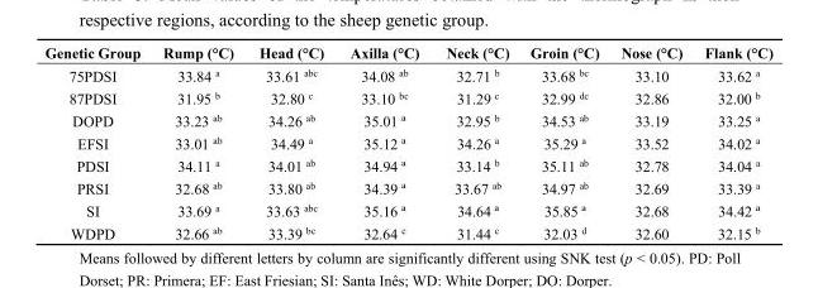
<table><thead><tr><td>Genetic Group</td><td>Rump (°C)</td><td>Head (°C)</td><td>Axilla (°C)</td><td>Neck (°C)</td><td>Groin (°C)</td><td>Nose (°C)</td><td>Flank (°C)</td></tr></thead><tbody><tr><td>75PDSI</td><td>33.84 <sup>a</sup></td><td>33.61 <sup>abc</sup></td><td>34.08 <sup>ab</sup></td><td>32.71 <sup>b</sup></td><td>33.68 <sup>bc</sup></td><td>33.10</td><td>33.62 <sup>a</sup></td></tr><tr><td>87PDSI</td><td>31.95 <sup>b</sup></td><td>32.80 <sup>c</sup></td><td>33.10 <sup>bc</sup></td><td>31.29 <sup>c</sup></td><td>32.99 <sup>dc</sup></td><td>32.86</td><td>32.00 <sup>b</sup></td></tr><tr><td>DOPD</td><td>33.23 <sup>ab</sup></td><td>34.26 <sup>ab</sup></td><td>35.01 <sup>ª</sup></td><td>32.95 <sup>b</sup></td><td>34.53 <sup>ab</sup></td><td>33.19</td><td>33.25 <sup>a</sup></td></tr><tr><td>EFSI</td><td>33.01 <sup>ab</sup></td><td>34.49 <sup>a</sup></td><td>35.12 <sup>ª</sup></td><td>34.26 <sup>a</sup></td><td>35.29 <sup>a</sup></td><td>33.52</td><td>34.02 <sup>a</sup></td></tr><tr><td>PDSI</td><td>34.11 <sup>a</sup></td><td>34.01 <sup>ab</sup></td><td>34.94 <sup>ª</sup></td><td>33.14 <sup>b</sup></td><td>35.11 <sup>ab</sup></td><td>32.78</td><td>34.04 <sup>a</sup></td></tr><tr><td>PRSI</td><td>32.68 <sup>ab</sup></td><td>33.80 <sup>ab</sup></td><td>34.39 <sup>ª</sup></td><td>33.67 <sup>ab</sup></td><td>34.97 <sup>ab</sup></td><td>32.69</td><td>33.39 <sup>a</sup></td></tr><tr><td>SI</td><td>33.69 <sup>a</sup></td><td>33.63 <sup>abc</sup></td><td>35.16 <sup>ª</sup></td><td>34.64 <sup>ª</sup></td><td>35.85 <sup>ª</sup></td><td>32.68</td><td>34.42 <sup>ª</sup></td></tr><tr><td>WDPD</td><td>32.66 <sup>ab</sup></td><td>33.39 <sup>bc</sup></td><td>32.64 <sup>c</sup></td><td>31.44 <sup>c</sup></td><td>32.03 <sup>d</sup></td><td>32.60</td><td>32.15 <sup>b</sup></td></tr></tbody></table>